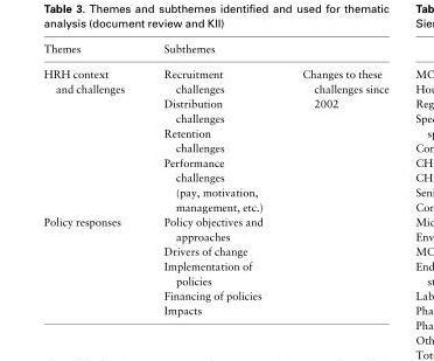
<table><thead><tr><td>Themes</td><td>Subthemes</td><td></td></tr></thead><tbody><tr><td rowspan="4">HRH context and challenges</td><td>Recruitment challenges</td><td rowspan="4">Changes to these challenges since 2002</td></tr><tr><td>Distribution challenges</td></tr><tr><td>Retention challenges</td></tr><tr><td>Performance challenges (pay, motivation, management, etc.)</td></tr><tr><td rowspan="5">Policy responses</td><td>Policy objectives and approaches</td><td></td></tr><tr><td>Drivers of change</td><td></td></tr><tr><td>Implementation of policies</td><td></td></tr><tr><td>Financing of policies</td><td></td></tr><tr><td>Impacts</td><td></td></tr></tbody></table>